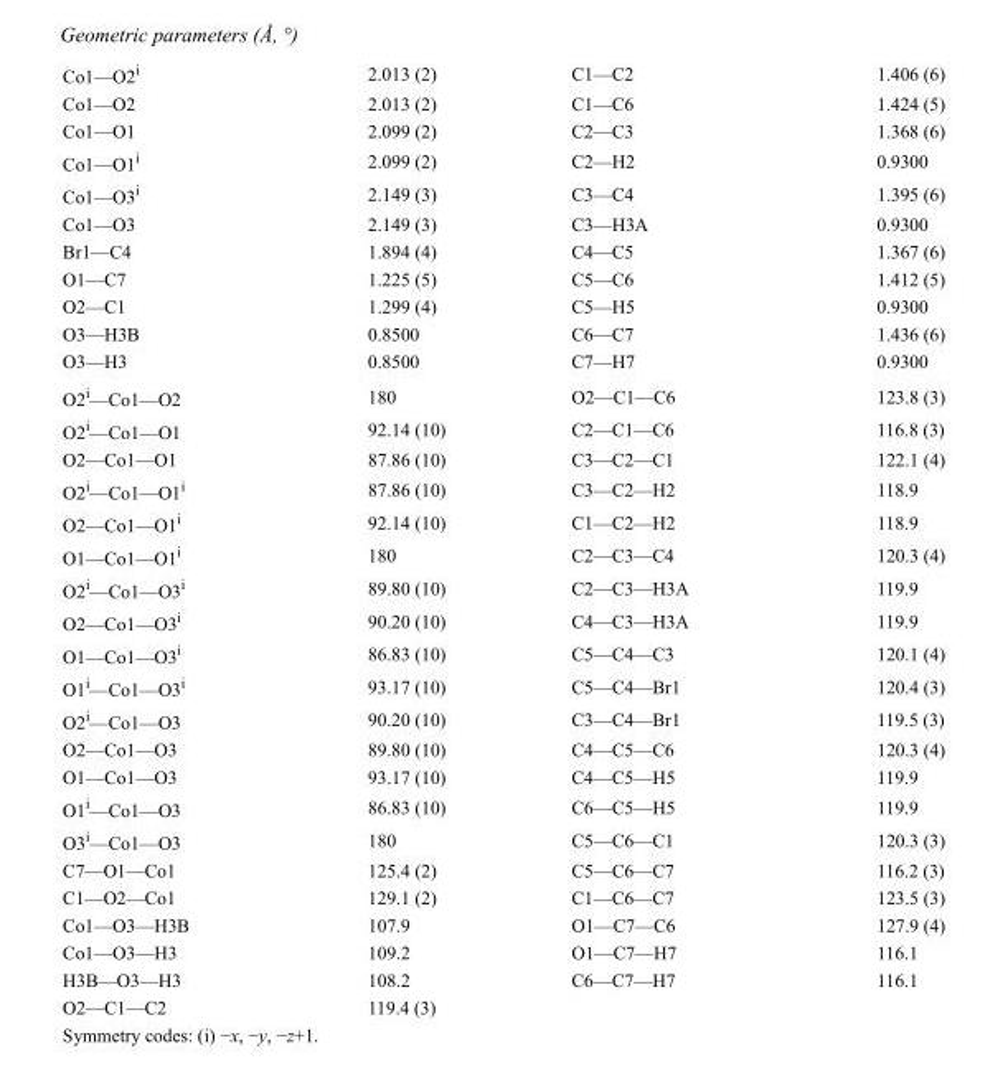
<table><tbody><tr><td>Co1—O2<sup>i</sup></td><td>2.013 (2)</td><td>C1—C2</td><td>1.406 (6)</td></tr><tr><td>Co1—O2</td><td>2.013 (2)</td><td>C1—C6</td><td>1.424 (5)</td></tr><tr><td>Co1—O1</td><td>2.099 (2)</td><td>C2—C3</td><td>1.368 (6)</td></tr><tr><td>Co1—O1<sup>i</sup></td><td>2.099 (2)</td><td>C2—H2</td><td>0.9300</td></tr><tr><td>Co1—O3<sup>i</sup></td><td>2.149 (3)</td><td>C3—C4</td><td>1.395 (6)</td></tr><tr><td>Co1—O3</td><td>2.149 (3)</td><td>C3—H3A</td><td>0.9300</td></tr><tr><td>Br1—C4</td><td>1.894 (4)</td><td>C4—C5</td><td>1.367 (6)</td></tr><tr><td>O1—C7</td><td>1.225 (5)</td><td>C5—C6</td><td>1.412 (5)</td></tr><tr><td>O2—C1</td><td>1.299 (4)</td><td>C5—H5</td><td>0.9300</td></tr><tr><td>O3—H3B</td><td>0.8500</td><td>C6—C7</td><td>1.436 (6)</td></tr><tr><td>O3—H3</td><td>0.8500</td><td>C7—H7</td><td>0.9300</td></tr><tr><td>O2<sup>i</sup>—Co1—O2</td><td>180</td><td>O2—C1—C6</td><td>123.8 (3)</td></tr><tr><td>O2<sup>i</sup>—Co1—O1</td><td>92.14 (10)</td><td>C2—C1—C6</td><td>116.8 (3)</td></tr><tr><td>O2—Co1—O1</td><td>87.86 (10)</td><td>C3—C2—C1</td><td>122.1 (4)</td></tr><tr><td>O2<sup>i</sup>—Co1—O1<sup>i</sup></td><td>87.86 (10)</td><td>C3—C2—H2</td><td>118.9</td></tr><tr><td>O2—Co1—O1<sup>i</sup></td><td>92.14 (10)</td><td>C1—C2—H2</td><td>118.9</td></tr><tr><td>O1—Co1—O1<sup>i</sup></td><td>180</td><td>C2—C3—C4</td><td>120.3 (4)</td></tr><tr><td>O2<sup>i</sup>—Co1—O3<sup>i</sup></td><td>89.80 (10)</td><td>C2—C3—H3A</td><td>119.9</td></tr><tr><td>O2—Co1—O3<sup>i</sup></td><td>90.20 (10)</td><td>C4—C3—H3A</td><td>119.9</td></tr><tr><td>O1—Co1—O3<sup>i</sup></td><td>86.83 (10)</td><td>C5—C4—C3</td><td>120.1 (4)</td></tr><tr><td>O1<sup>i</sup>—Co1—O3<sup>i</sup></td><td>93.17 (10)</td><td>C5—C4—Br1</td><td>120.4 (3)</td></tr><tr><td>O2<sup>i</sup>—Co1—O3</td><td>90.20 (10)</td><td>C3—C4—Br1</td><td>119.5 (3)</td></tr><tr><td>O2—Co1—O3</td><td>89.80 (10)</td><td>C4—C5—C6</td><td>120.3 (4)</td></tr><tr><td>O1—Co1—O3</td><td>93.17 (10)</td><td>C4—C5—H5</td><td>119.9</td></tr><tr><td>O1<sup>i</sup>—Co1—O3</td><td>86.83 (10)</td><td>C6—C5—H5</td><td>119.9</td></tr><tr><td>O3<sup>i</sup>—Co1—O3</td><td>180</td><td>C5—C6—C1</td><td>120.3 (3)</td></tr><tr><td>C7—O1—Co1</td><td>125.4 (2)</td><td>C5—C6—C7</td><td>116.2 (3)</td></tr><tr><td>C1—O2—Co1</td><td>129.1 (2)</td><td>C1—C6—C7</td><td>123.5 (3)</td></tr><tr><td>Co1—O3—H3B</td><td>107.9</td><td>O1—C7—C6</td><td>127.9 (4)</td></tr><tr><td>Co1—O3—H3</td><td>109.2</td><td>O1—C7—H7</td><td>116.1</td></tr><tr><td>H3B—O3—H3</td><td>108.2</td><td>C6—C7—H7</td><td>116.1</td></tr><tr><td>O2—C1—C2</td><td>119.4 (3)</td><td></td><td></td></tr></tbody></table>